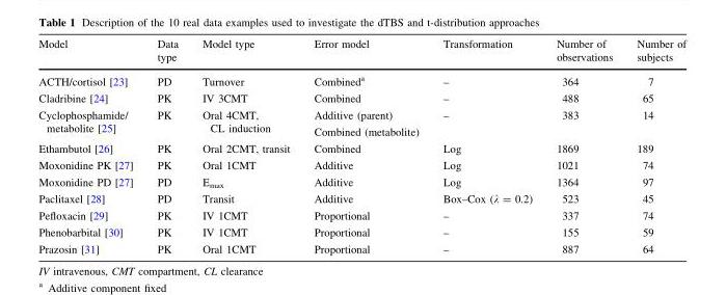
<table><thead><tr><td>Model</td><td>Data type</td><td>Model type</td><td>Error model</td><td>Transformation</td><td>Number of observations</td><td>Number of subjects</td></tr></thead><tbody><tr><td>ACTH/cortisol [23]</td><td>PD</td><td>Turnover</td><td>Combined<sup>a</sup></td><td>–</td><td>364</td><td>7</td></tr><tr><td>Cladribine [24]</td><td>PK</td><td>IV 3CMT</td><td>Combined</td><td>–</td><td>488</td><td>65</td></tr><tr><td>Cyclophosphamide/ metabolite [25]</td><td>PK</td><td>Oral 4CMT, CL induction</td><td>Additive (parent) Combined (metabolite)</td><td>–</td><td>383</td><td>14</td></tr><tr><td>Ethambutol [26]</td><td>PK</td><td>Oral 2CMT, transit</td><td>Combined</td><td>Log</td><td>1869</td><td>189</td></tr><tr><td>Moxonidine PK [27]</td><td>PK</td><td>Oral 1CMT</td><td>Additive</td><td>Log</td><td>1021</td><td>74</td></tr><tr><td>Moxonidine PD [27]</td><td>PD</td><td>E<sub>max</sub></td><td>Additive</td><td>Log</td><td>1364</td><td>97</td></tr><tr><td>Paclitaxel [28]</td><td>PD</td><td>Transit</td><td>Additive</td><td>Box–Cox (λ = 0.2)</td><td>523</td><td>45</td></tr><tr><td>Pefloxacin [29]</td><td>PK</td><td>IV 1CMT</td><td>Proportional</td><td>–</td><td>337</td><td>74</td></tr><tr><td>Phenobarbital [30]</td><td>PK</td><td>IV 1CMT</td><td>Proportional</td><td>–</td><td>155</td><td>59</td></tr><tr><td>Prazosin [31]</td><td>PK</td><td>Oral 1CMT</td><td>Proportional</td><td>–</td><td>887</td><td>64</td></tr></tbody></table>